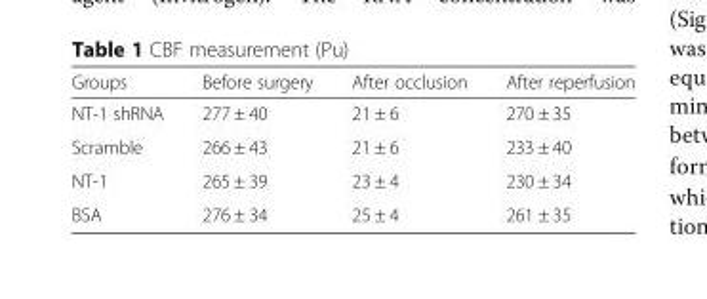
<table><thead><tr><td>Groups</td><td>Before surgery</td><td>After occlusion</td><td>After reperfusion</td></tr></thead><tbody><tr><td>NT-1 shRNA</td><td>277 ± 40</td><td>21 ± 6</td><td>270 ± 35</td></tr><tr><td>Scramble</td><td>266 ± 43</td><td>21 ± 6</td><td>233 ± 40</td></tr><tr><td>NT-1</td><td>265 ± 39</td><td>23 ± 4</td><td>230 ± 34</td></tr><tr><td>BSA</td><td>276 ± 34</td><td>25 ± 4</td><td>261 ± 35</td></tr></tbody></table>